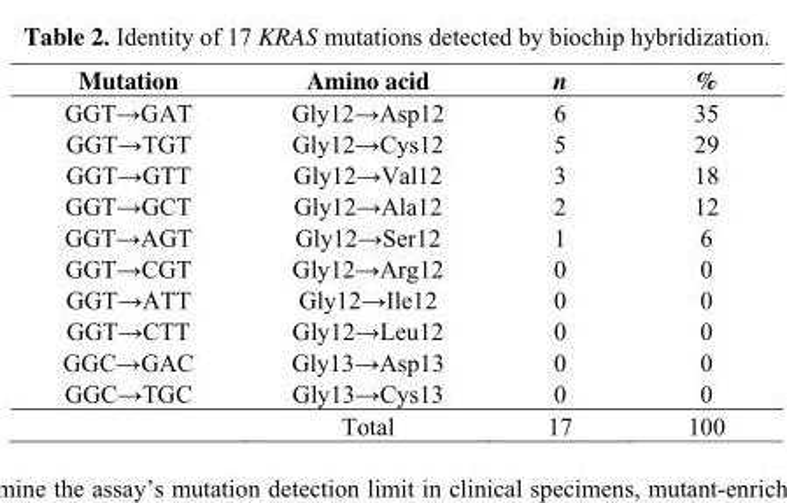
<table><thead><tr><td>Mutation</td><td>Amino acid</td><td>n</td><td>%</td></tr></thead><tbody><tr><td>GGT→GAT</td><td>Gly12→Asp12</td><td>6</td><td>35</td></tr><tr><td>GGT→TGT</td><td>Gly12→Cys12</td><td>5</td><td>29</td></tr><tr><td>GGT→GTT</td><td>Gly12→Val12</td><td>3</td><td>18</td></tr><tr><td>GGT→GCT</td><td>Gly12→Ala12</td><td>2</td><td>12</td></tr><tr><td>GGT→AGT</td><td>Gly12→Ser12</td><td>1</td><td>6</td></tr><tr><td>GGT→CGT</td><td>Gly12→Arg12</td><td>0</td><td>0</td></tr><tr><td>GGT→ATT</td><td>Gly12→Ile12</td><td>0</td><td>0</td></tr><tr><td>GGT→CTT</td><td>Gly12→Leu12</td><td>0</td><td>0</td></tr><tr><td>GGC→GAC</td><td>Gly13→Asp13</td><td>0</td><td>0</td></tr><tr><td rowspan="2">GGC→TGC</td><td>Gly13→Cys13</td><td>0</td><td>0</td></tr><tr><td>Total</td><td>17</td><td>100</td></tr></tbody></table>